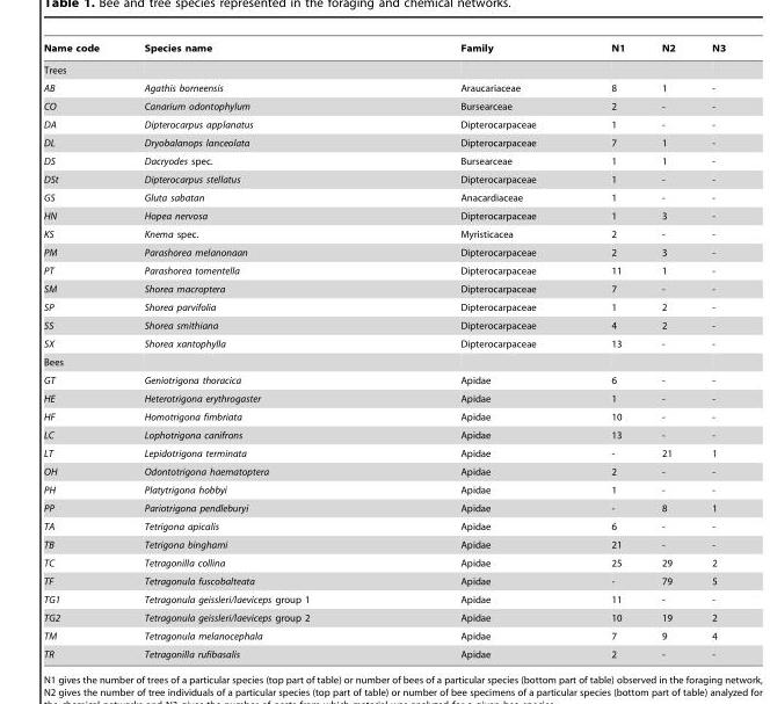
<table><thead><tr><td>Name code</td><td>Species name</td><td>Family</td><td>N1</td><td>N2</td><td>N3</td></tr></thead><tbody><tr><td colspan="6">Trees</td></tr><tr><td>AB</td><td>Agathis borneensis</td><td>Araucariaceae</td><td>8</td><td>1</td><td>-</td></tr><tr><td>CO</td><td>Canarium odontophylum</td><td>Bursearceae</td><td>2</td><td>-</td><td>-</td></tr><tr><td>DA</td><td>Dipterocarpus applanatus</td><td>Dipterocarpaceae</td><td>1</td><td>-</td><td>-</td></tr><tr><td>DL</td><td>Dryobalanops lanceolata</td><td>Dipterocarpaceae</td><td>7</td><td>1</td><td>-</td></tr><tr><td>DS</td><td>Dacryodes spec.</td><td>Bursearceae</td><td>1</td><td>1</td><td>-</td></tr><tr><td>DSt</td><td>Dipterocarpus stellatus</td><td>Dipterocarpaceae</td><td>1</td><td>-</td><td>-</td></tr><tr><td>GS</td><td>Gluta sabatan</td><td>Anacardiaceae</td><td>1</td><td>-</td><td>-</td></tr><tr><td>HN</td><td>Hopea nervosa</td><td>Dipterocarpaceae</td><td>1</td><td>3</td><td>-</td></tr><tr><td>KS</td><td>Knema spec.</td><td>Myristicacea</td><td>2</td><td>-</td><td>-</td></tr><tr><td>PM</td><td>Parashorea melanonaan</td><td>Dipterocarpaceae</td><td>2</td><td>3</td><td>-</td></tr><tr><td>PT</td><td>Parashorea tomentella</td><td>Dipterocarpaceae</td><td>11</td><td>1</td><td>-</td></tr><tr><td>SM</td><td>Shorea macroptera</td><td>Dipterocarpaceae</td><td>7</td><td>-</td><td>-</td></tr><tr><td>SP</td><td>Shorea parvifolia</td><td>Dipterocarpaceae</td><td>1</td><td>2</td><td>-</td></tr><tr><td>SS</td><td>Shorea smithiana</td><td>Dipterocarpaceae</td><td>4</td><td>2</td><td>-</td></tr><tr><td>SX</td><td>Shorea xantophylla</td><td>Dipterocarpaceae</td><td>13</td><td>-</td><td>-</td></tr><tr><td colspan="6">Bees</td></tr><tr><td>GT</td><td>Geniotrigona thoracica</td><td>Apidae</td><td>6</td><td>-</td><td>-</td></tr><tr><td>HE</td><td>Heterotrigona erythrogaster</td><td>Apidae</td><td>1</td><td>-</td><td>-</td></tr><tr><td>HF</td><td>Homotrigona fimbriata</td><td>Apidae</td><td>10</td><td>-</td><td>-</td></tr><tr><td>LC</td><td>Lophotrigona canifrons</td><td>Apidae</td><td>13</td><td>-</td><td>-</td></tr><tr><td>LT</td><td>Lepidotrigona terminata</td><td>Apidae</td><td>-</td><td>21</td><td>1</td></tr><tr><td>OH</td><td>Odontotrigona haematoptera</td><td>Apidae</td><td>2</td><td>-</td><td>-</td></tr><tr><td>PH</td><td>Platytrigona hobbyi</td><td>Apidae</td><td>1</td><td>-</td><td>-</td></tr><tr><td>PP</td><td>Pariotrigona pendleburyi</td><td>Apidae</td><td>-</td><td>8</td><td>1</td></tr><tr><td>TA</td><td>Tetrigona apicalis</td><td>Apidae</td><td>6</td><td>-</td><td>-</td></tr><tr><td>TB</td><td>Tetrigona binghami</td><td>Apidae</td><td>21</td><td>-</td><td>-</td></tr><tr><td>TC</td><td>Tetragonilla collina</td><td>Apidae</td><td>25</td><td>29</td><td>2</td></tr><tr><td>TF</td><td>Tetragonula fuscobalteata</td><td>Apidae</td><td>-</td><td>79</td><td>5</td></tr><tr><td>TG1</td><td>Tetragonula geissleri/laeviceps group 1</td><td>Apidae</td><td>11</td><td>-</td><td>-</td></tr><tr><td>TG2</td><td>Tetragonula geissleri/laeviceps group 2</td><td>Apidae</td><td>10</td><td>19</td><td>2</td></tr><tr><td>TM</td><td>Tetragonula melanocephala</td><td>Apidae</td><td>7</td><td>9</td><td>4</td></tr><tr><td>TR</td><td>Tetragonilla rufibasalis</td><td>Apidae</td><td>2</td><td>-</td><td>-</td></tr></tbody></table>